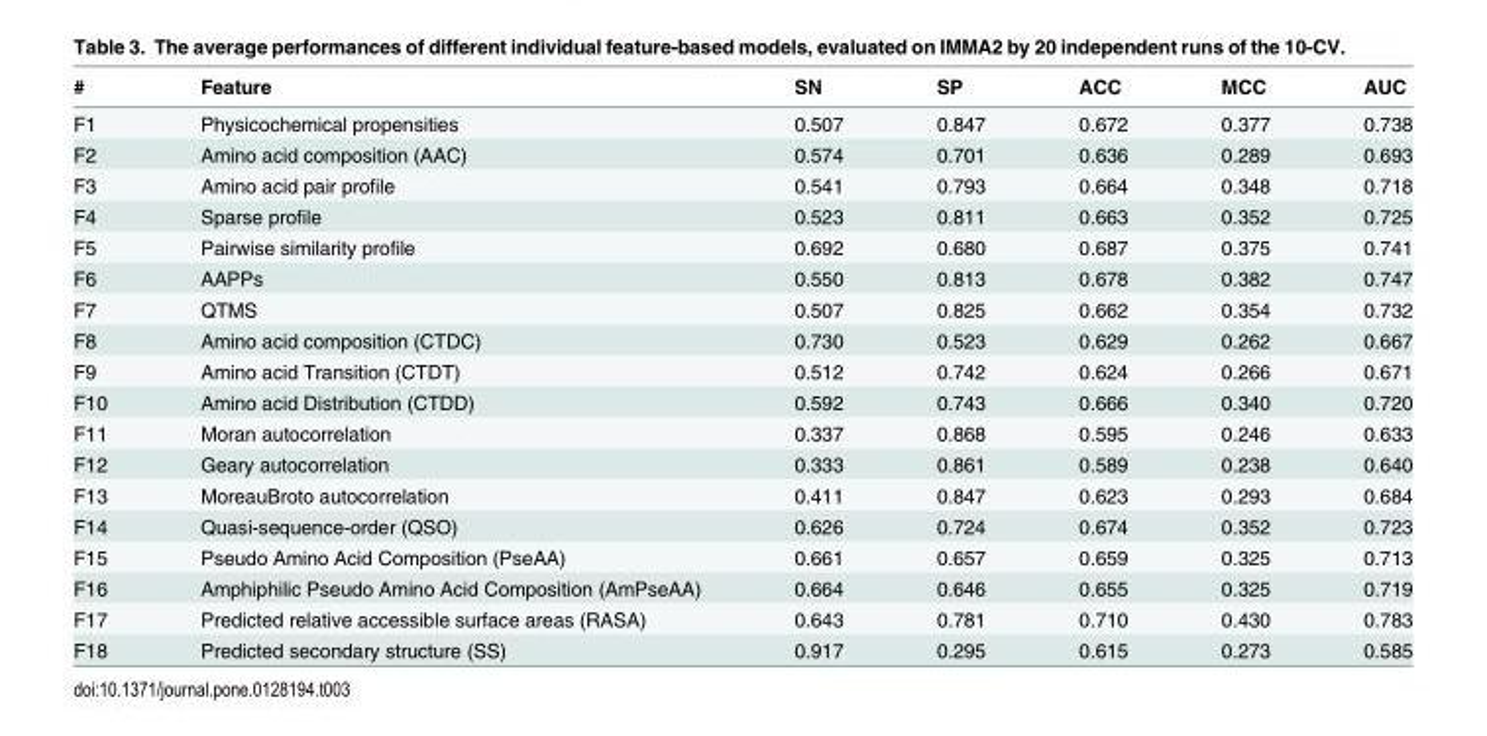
<table><thead><tr><td>#</td><td>Feature</td><td>SN</td><td>SP</td><td>ACC</td><td>MCC</td><td>AUC</td></tr></thead><tbody><tr><td>F1</td><td>Physicochemical propensities</td><td>0.507</td><td>0.847</td><td>0.672</td><td>0.377</td><td>0.738</td></tr><tr><td>F2</td><td>Amino acid composition (AAC)</td><td>0.574</td><td>0.701</td><td>0.636</td><td>0.289</td><td>0.693</td></tr><tr><td>F3</td><td>Amino acid pair profile</td><td>0.541</td><td>0.793</td><td>0.664</td><td>0.348</td><td>0.718</td></tr><tr><td>F4</td><td>Sparse profile</td><td>0.523</td><td>0.811</td><td>0.663</td><td>0.352</td><td>0.725</td></tr><tr><td>F5</td><td>Pairwise similarity profile</td><td>0.692</td><td>0.680</td><td>0.687</td><td>0.375</td><td>0.741</td></tr><tr><td>F6</td><td>AAPPs</td><td>0.550</td><td>0.813</td><td>0.678</td><td>0.382</td><td>0.747</td></tr><tr><td>F7</td><td>QTMS</td><td>0.507</td><td>0.825</td><td>0.662</td><td>0.354</td><td>0.732</td></tr><tr><td>F8</td><td>Amino acid composition (CTDC)</td><td>0.730</td><td>0.523</td><td>0.629</td><td>0.262</td><td>0.667</td></tr><tr><td>F9</td><td>Amino acid Transition (CTDT)</td><td>0.512</td><td>0.742</td><td>0.624</td><td>0.266</td><td>0.671</td></tr><tr><td>F10</td><td>Amino acid Distribution (CTDD)</td><td>0.592</td><td>0.743</td><td>0.666</td><td>0.340</td><td>0.720</td></tr><tr><td>F11</td><td>Moran autocorrelation</td><td>0.337</td><td>0.868</td><td>0.595</td><td>0.246</td><td>0.633</td></tr><tr><td>F12</td><td>Geary autocorrelation</td><td>0.333</td><td>0.861</td><td>0.589</td><td>0.238</td><td>0.640</td></tr><tr><td>F13</td><td>MoreauBroto autocorrelation</td><td>0.411</td><td>0.847</td><td>0.623</td><td>0.293</td><td>0.684</td></tr><tr><td>F14</td><td>Quasi-sequence-order (QSO)</td><td>0.626</td><td>0.724</td><td>0.674</td><td>0.352</td><td>0.723</td></tr><tr><td>F15</td><td>Pseudo Amino Acid Composition (PseAA)</td><td>0.661</td><td>0.657</td><td>0.659</td><td>0.325</td><td>0.713</td></tr><tr><td>F16</td><td>Amphiphilic Pseudo Amino Acid Composition (AmPseAA)</td><td>0.664</td><td>0.646</td><td>0.655</td><td>0.325</td><td>0.719</td></tr><tr><td>F17</td><td>Predicted relative accessible surface areas (RASA)</td><td>0.643</td><td>0.781</td><td>0.710</td><td>0.430</td><td>0.783</td></tr><tr><td>F18</td><td>Predicted secondary structure (SS)</td><td>0.917</td><td>0.295</td><td>0.615</td><td>0.273</td><td>0.585</td></tr></tbody></table>